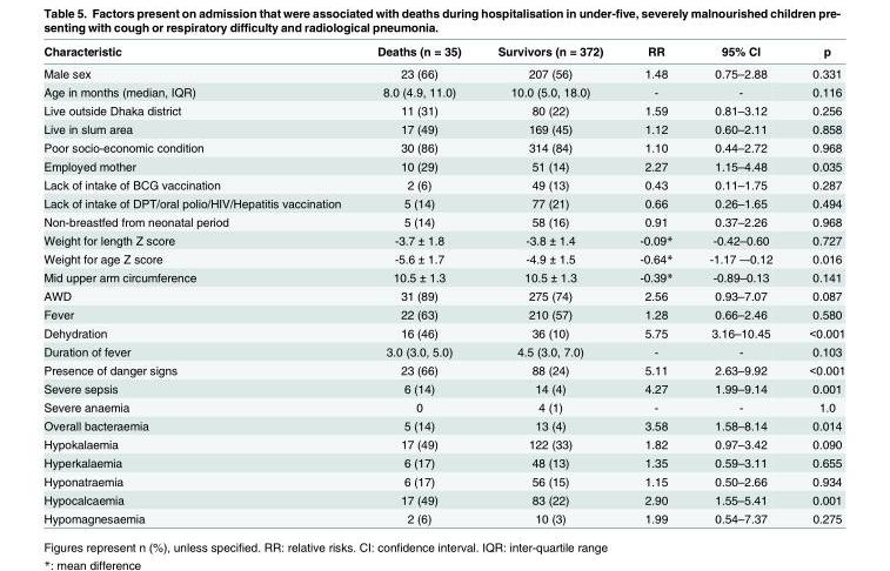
<table><thead><tr><td>Characteristic</td><td>Deaths (n = 35)</td><td>Survivors (n = 372)</td><td>RR</td><td>95% CI</td><td>p</td></tr></thead><tbody><tr><td>Male sex</td><td>23 (66)</td><td>207 (56)</td><td>1.48</td><td>0.75–2.88</td><td>0.331</td></tr><tr><td>Age in months (median, IQR)</td><td>8.0 (4.9, 11.0)</td><td>10.0 (5.0, 18.0)</td><td>-</td><td>-</td><td>0.116</td></tr><tr><td>Live outside Dhaka district</td><td>11 (31)</td><td>80 (22)</td><td>1.59</td><td>0.81–3.12</td><td>0.256</td></tr><tr><td>Live in slum area</td><td>17 (49)</td><td>169 (45)</td><td>1.12</td><td>0.60–2.11</td><td>0.858</td></tr><tr><td>Poor socio-economic condition</td><td>30 (86)</td><td>314 (84)</td><td>1.10</td><td>0.44–2.72</td><td>0.968</td></tr><tr><td>Employed mother</td><td>10 (29)</td><td>51 (14)</td><td>2.27</td><td>1.15–4.48</td><td>0.035</td></tr><tr><td>Lack of intake of BCG vaccination</td><td>2 (6)</td><td>49 (13)</td><td>0.43</td><td>0.11–1.75</td><td>0.287</td></tr><tr><td>Lack of intake of DPT/oral polio/HIV/Hepatitis vaccination</td><td>5 (14)</td><td>77 (21)</td><td>0.66</td><td>0.26–1.65</td><td>0.494</td></tr><tr><td>Non-breastfed from neonatal period</td><td>5 (14)</td><td>58 (16)</td><td>0.91</td><td>0.37–2.26</td><td>0.968</td></tr><tr><td>Weight for length Z score</td><td>-3.7 ± 1.8</td><td>-3.8 ± 1.4</td><td>-0.09*</td><td>-0.42–0.60</td><td>0.727</td></tr><tr><td>Weight for age Z score</td><td>-5.6 ± 1.7</td><td>-4.9 ± 1.5</td><td>-0.64*</td><td>-1.17 –-0.12</td><td>0.016</td></tr><tr><td>Mid upper arm circumference</td><td>10.5 ± 1.3</td><td>10.5 ± 1.3</td><td>-0.39*</td><td>-0.89–0.13</td><td>0.141</td></tr><tr><td>AWD</td><td>31 (89)</td><td>275 (74)</td><td>2.56</td><td>0.93–7.07</td><td>0.087</td></tr><tr><td>Fever</td><td>22 (63)</td><td>210 (57)</td><td>1.28</td><td>0.66–2.46</td><td>0.580</td></tr><tr><td>Dehydration</td><td>16 (46)</td><td>36 (10)</td><td>5.75</td><td>3.16–10.45</td><td>&lt;0.001</td></tr><tr><td>Duration of fever</td><td>3.0 (3.0, 5.0)</td><td>4.5 (3.0, 7.0)</td><td>-</td><td>-</td><td>0.103</td></tr><tr><td>Presence of danger signs</td><td>23 (66)</td><td>88 (24)</td><td>5.11</td><td>2.63–9.92</td><td>&lt;0.001</td></tr><tr><td>Severe sepsis</td><td>6 (14)</td><td>14 (4)</td><td>4.27</td><td>1.99–9.14</td><td>0.001</td></tr><tr><td>Severe anaemia</td><td>0</td><td>4 (1)</td><td>-</td><td>-</td><td>1.0</td></tr><tr><td>Overall bacteraemia</td><td>5 (14)</td><td>13 (4)</td><td>3.58</td><td>1.58–8.14</td><td>0.014</td></tr><tr><td>Hypokalaemia</td><td>17 (49)</td><td>122 (33)</td><td>1.82</td><td>0.97–3.42</td><td>0.090</td></tr><tr><td>Hyperkalaemia</td><td>6 (17)</td><td>48 (13)</td><td>1.35</td><td>0.59–3.11</td><td>0.655</td></tr><tr><td>Hyponatraemia</td><td>6 (17)</td><td>56 (15)</td><td>1.15</td><td>0.50–2.66</td><td>0.934</td></tr><tr><td>Hypocalcaemia</td><td>17 (49)</td><td>83 (22)</td><td>2.90</td><td>1.55–5.41</td><td>0.001</td></tr><tr><td>Hypomagnesaemia</td><td>2 (6)</td><td>10 (3)</td><td>1.99</td><td>0.54–7.37</td><td>0.275</td></tr></tbody></table>